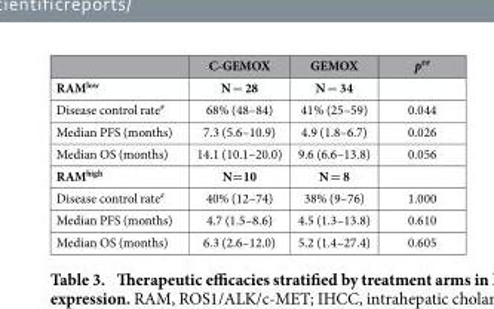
<table><thead><tr><td></td><td>C-GEMOX</td><td>GEMOX</td><td>p##</td></tr></thead><tbody><tr><td>RAM<sup>low</sup></td><td>N = 28</td><td>N = 34</td><td></td></tr><tr><td>Disease control rate#</td><td>68% (48–84)</td><td>41% (25–59)</td><td>0.044</td></tr><tr><td>Median PFS (months)</td><td>7.3 (5.6–10.9)</td><td>4.9 (1.8–6.7)</td><td>0.026</td></tr><tr><td>Median OS (months)</td><td>14.1 (10.1–20.0)</td><td>9.6 (6.6–13.8)</td><td>0.056</td></tr><tr><td>RAM<sup>high</sup></td><td>N= 10</td><td>N = 8</td><td></td></tr><tr><td>Disease control rate#</td><td>40% (12–74)</td><td>38% (9–76)</td><td>1.000</td></tr><tr><td>Median PFS (months)</td><td>4.7 (1.5–8.6)</td><td>4.5 (1.3–13.8)</td><td>0.610</td></tr><tr><td>Median OS (months)</td><td>6.3 (2.6–12.0)</td><td>5.2 (1.4–27.4)</td><td>0.605</td></tr></tbody></table>